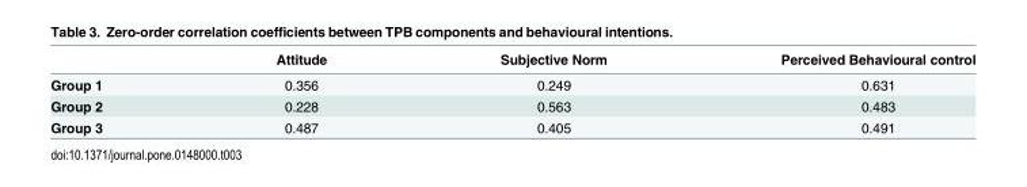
<table><thead><tr><td></td><td>Attitude</td><td>Subjective Norm</td><td>Perceived Behavioural control</td></tr></thead><tbody><tr><td>Group 1</td><td>0.356</td><td>0.249</td><td>0.631</td></tr><tr><td>Group 2</td><td>0.228</td><td>0.563</td><td>0.483</td></tr><tr><td>Group 3</td><td>0.487</td><td>0.405</td><td>0.491</td></tr></tbody></table>